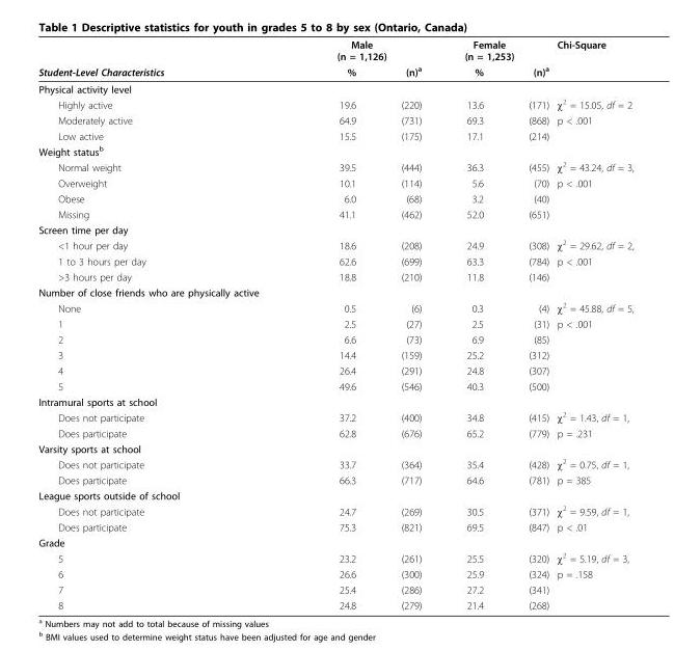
<table><thead><tr><td rowspan="2">Student-Level Characteristics</td><td colspan="2">Male (n = 1,126)</td><td colspan="2">Female (n = 1,253)</td><td rowspan="2">Chi-Square</td></tr><tr><td>%</td><td>(n)<sup>a</sup></td><td>%</td><td>(n)<sup>a</sup></td></tr></thead><tbody><tr><td colspan="6">Physical activity level</td></tr><tr><td>Highly active</td><td>19.6</td><td>(220)</td><td>13.6</td><td>(171)</td><td>χ<sup>2</sup> = 15.05, df = 2</td></tr><tr><td>Moderately active</td><td>64.9</td><td>(731)</td><td>69.3</td><td>(868)</td><td>p &lt; .001</td></tr><tr><td>Low active</td><td>15.5</td><td>(175)</td><td>17.1</td><td>(214)</td><td></td></tr><tr><td colspan="6">Weight status<sup>b</sup></td></tr><tr><td>Normal weight</td><td>39.5</td><td>(444)</td><td>36.3</td><td>(455)</td><td>χ<sup>2</sup> = 43.24, df = 3,</td></tr><tr><td>Overweight</td><td>10.1</td><td>(114)</td><td>5.6</td><td>(70)</td><td>p &lt; .001</td></tr><tr><td>Obese</td><td>6.0</td><td>(68)</td><td>3.2</td><td>(40)</td><td></td></tr><tr><td>Missing</td><td>41.1</td><td>(462)</td><td>52.0</td><td>(651)</td><td></td></tr><tr><td colspan="6">Screen time per day</td></tr><tr><td>&lt;1 hour per day</td><td>18.6</td><td>(208)</td><td>24.9</td><td>(308)</td><td>χ<sup>2</sup> = 29.62, df = 2,</td></tr><tr><td>1 to 3 hours per day</td><td>62.6</td><td>(699)</td><td>63.3</td><td>(784)</td><td>p &lt; .001</td></tr><tr><td>&gt;3 hours per day</td><td>18.8</td><td>(210)</td><td>11.8</td><td>(146)</td><td></td></tr><tr><td colspan="6">Number of close friends who are physically active</td></tr><tr><td>None</td><td>0.5</td><td>(6)</td><td>0.3</td><td>(4)</td><td>χ<sup>2</sup> = 45.88, df = 5,</td></tr><tr><td>1</td><td>2.5</td><td>(27)</td><td>2.5</td><td>(31)</td><td>p &lt; .001</td></tr><tr><td>2</td><td>6.6</td><td>(73)</td><td>6.9</td><td>(85)</td><td></td></tr><tr><td>3</td><td>14.4</td><td>(159)</td><td>25.2</td><td>(312)</td><td></td></tr><tr><td>4</td><td>26.4</td><td>(291)</td><td>24.8</td><td>(307)</td><td></td></tr><tr><td>5</td><td>49.6</td><td>(546)</td><td>40.3</td><td>(500)</td><td></td></tr><tr><td colspan="6">Intramural sports at school</td></tr><tr><td>Does not participate</td><td>37.2</td><td>(400)</td><td>34.8</td><td>(415)</td><td>χ<sup>2</sup> = 1.43, df = 1,</td></tr><tr><td>Does participate</td><td>62.8</td><td>(676)</td><td>65.2</td><td>(779)</td><td>p = .231</td></tr><tr><td colspan="6">Varsity sports at school</td></tr><tr><td>Does not participate</td><td>33.7</td><td>(364)</td><td>35.4</td><td>(428)</td><td>χ<sup>2</sup> = 0.75, df = 1,</td></tr><tr><td>Does participate</td><td>66.3</td><td>(717)</td><td>64.6</td><td>(781)</td><td>p = 385</td></tr><tr><td colspan="6">League sports outside of school</td></tr><tr><td>Does not participate</td><td>24.7</td><td>(269)</td><td>30.5</td><td>(371)</td><td>χ<sup>2</sup> = 9.59, df = 1,</td></tr><tr><td>Does participate</td><td>75.3</td><td>(821)</td><td>69.5</td><td>(847)</td><td>p &lt; .01</td></tr><tr><td colspan="6">Grade</td></tr><tr><td>5</td><td>23.2</td><td>(261)</td><td>25.5</td><td>(320)</td><td>χ<sup>2</sup> = 5.19, df = 3,</td></tr><tr><td>6</td><td>26.6</td><td>(300)</td><td>25.9</td><td>(324)</td><td>p = .158</td></tr><tr><td>7</td><td>25.4</td><td>(286)</td><td>27.2</td><td>(341)</td><td></td></tr><tr><td>8</td><td>24.8</td><td>(279)</td><td>21.4</td><td>(268)</td><td></td></tr></tbody></table>